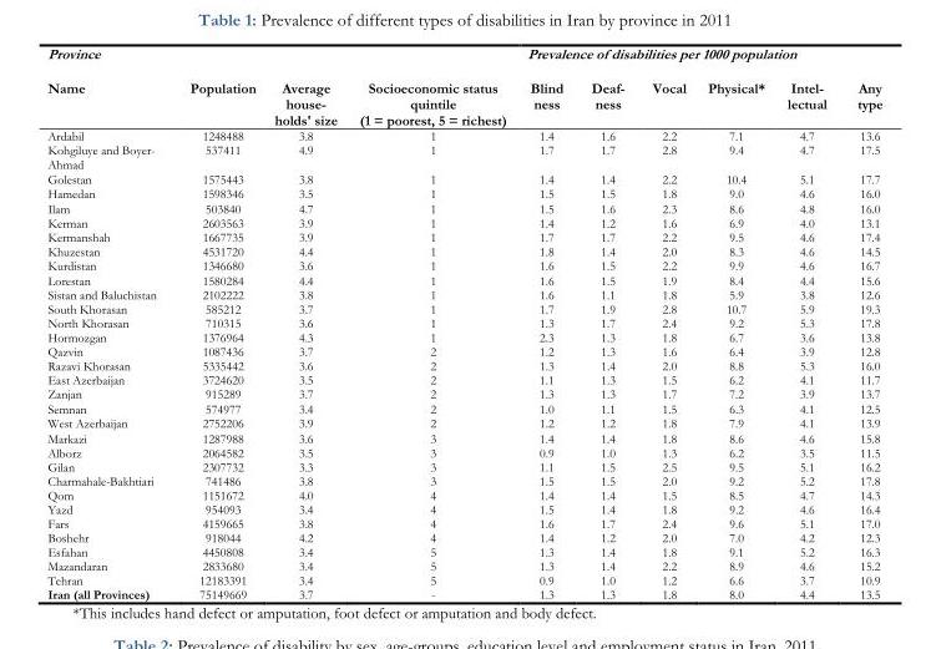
<table><thead><tr><td rowspan="2">Province Name</td><td colspan="9">Prevalence of disabilities per 1000 population</td></tr><tr><td>Population</td><td>Average house- holds&#x27; size</td><td>Socioeconomic status quintile (1 = poorest, 5 = richest)</td><td>Blind ness</td><td>Deaf- ness</td><td>Vocal</td><td>Physical*</td><td>Intel- lectual</td><td>Any type</td></tr></thead><tbody><tr><td>Ardabil</td><td>1248488</td><td>3.8</td><td>1</td><td>1.4</td><td>1.6</td><td>2.2</td><td>7.1</td><td>4.7</td><td>13.6</td></tr><tr><td>Kohgiluye and Boyer- Ahmad</td><td>537411</td><td>4.9</td><td>1</td><td>1.7</td><td>1.7</td><td>2.8</td><td>9.4</td><td>4.7</td><td>17.5</td></tr><tr><td>Golestan</td><td>1575443</td><td>3.8</td><td>1</td><td>1.4</td><td>1.4</td><td>2.2</td><td>10.4</td><td>5.1</td><td>17.7</td></tr><tr><td>Hamedan</td><td>1598346</td><td>3.5</td><td>1</td><td>1.5</td><td>1.5</td><td>1.8</td><td>9.0</td><td>4.6</td><td>16.0</td></tr><tr><td>Ilam</td><td>503840</td><td>4.7</td><td>1</td><td>1.5</td><td>1.6</td><td>2.3</td><td>8.6</td><td>4.8</td><td>16.0</td></tr><tr><td>Kerman</td><td>2603563</td><td>3.9</td><td>1</td><td>1.4</td><td>1.2</td><td>1.6</td><td>6.9</td><td>4.0</td><td>13.1</td></tr><tr><td>Kermanshah</td><td>1667735</td><td>3.9</td><td>1</td><td>1.7</td><td>1.7</td><td>2.2</td><td>9.5</td><td>4.6</td><td>17.4</td></tr><tr><td>Khuzestan</td><td>4531720</td><td>4.4</td><td>1</td><td>1.8</td><td>1.4</td><td>2.0</td><td>8.3</td><td>4.6</td><td>14.5</td></tr><tr><td>Kurdistan</td><td>1346680</td><td>3.6</td><td>1</td><td>1.6</td><td>1.5</td><td>2.2</td><td>9.9</td><td>4.6</td><td>16.7</td></tr><tr><td>Lorestan</td><td>1580284</td><td>4.4</td><td>1</td><td>1.6</td><td>1.5</td><td>1.9</td><td>8.4</td><td>4.4</td><td>15.6</td></tr><tr><td>Sistan and Baluchistan</td><td>2102222</td><td>3.8</td><td>1</td><td>1.6</td><td>1.1</td><td>1.8</td><td>5.9</td><td>3.8</td><td>12.6</td></tr><tr><td>South Khorasan</td><td>585212</td><td>3.7</td><td>1</td><td>1.7</td><td>1.9</td><td>2.8</td><td>10.7</td><td>5.9</td><td>19.3</td></tr><tr><td>North Khorasan</td><td>710315</td><td>3.6</td><td>1</td><td>1.3</td><td>1.7</td><td>2.4</td><td>9.2</td><td>5.3</td><td>17.8</td></tr><tr><td>Hormozgan</td><td>1376964</td><td>4.3</td><td>1</td><td>2.3</td><td>1.3</td><td>1.8</td><td>6.7</td><td>3.6</td><td>13.8</td></tr><tr><td>Qazvin</td><td>1087436</td><td>3.7</td><td>2</td><td>1.2</td><td>1.3</td><td>1.6</td><td>6.4</td><td>3.9</td><td>12.8</td></tr><tr><td>Razavi Khorasan</td><td>5335442</td><td>3.6</td><td>2</td><td>1.3</td><td>1.4</td><td>2.0</td><td>8.8</td><td>5.3</td><td>16.0</td></tr><tr><td>East Azerbaijan</td><td>3724620</td><td>3.5</td><td>2</td><td>1.1</td><td>1.3</td><td>1.5</td><td>6.2</td><td>4.1</td><td>11.7</td></tr><tr><td>Zanjan</td><td>915289</td><td>3.7</td><td>2</td><td>1.3</td><td>1.3</td><td>1.7</td><td>7.2</td><td>3.9</td><td>13.7</td></tr><tr><td>Semnan</td><td>574977</td><td>3.4</td><td>2</td><td>1.0</td><td>1.1</td><td>1.5</td><td>6.3</td><td>4.1</td><td>12.5</td></tr><tr><td>West Azerbaijan</td><td>2752206</td><td>3.9</td><td>2</td><td>1.2</td><td>1.2</td><td>1.8</td><td>7.9</td><td>4.1</td><td>13.9</td></tr><tr><td>Markazi</td><td>1287988</td><td>3.6</td><td>3</td><td>1.4</td><td>1.4</td><td>1.8</td><td>8.6</td><td>4.6</td><td>15.8</td></tr><tr><td>Alborz</td><td>2064582</td><td>3.5</td><td>3</td><td>0.9</td><td>1.0</td><td>1.3</td><td>6.2</td><td>3.5</td><td>11.5</td></tr><tr><td>Gilan</td><td>2307732</td><td>3.3</td><td>3</td><td>1.1</td><td>1.5</td><td>2.5</td><td>9.5</td><td>5.1</td><td>16.2</td></tr><tr><td>Charmahale-Bakhtiari</td><td>741486</td><td>3.8</td><td>3</td><td>1.5</td><td>1.5</td><td>2.0</td><td>9.2</td><td>5.2</td><td>17.8</td></tr><tr><td>Qom</td><td>1151672</td><td>4.0</td><td>4</td><td>1.4</td><td>1.4</td><td>1.5</td><td>8.5</td><td>4.7</td><td>14.3</td></tr><tr><td>Yazd</td><td>954093</td><td>3.4</td><td>4</td><td>1.5</td><td>1.4</td><td>1.8</td><td>9.2</td><td>4.6</td><td>16.4</td></tr><tr><td>Fars</td><td>4159665</td><td>3.8</td><td>4</td><td>1.6</td><td>1.7</td><td>2.4</td><td>9.6</td><td>5.1</td><td>17.0</td></tr><tr><td>Boshehr</td><td>918044</td><td>4.2</td><td>4</td><td>1.4</td><td>1.2</td><td>2.0</td><td>7.0</td><td>4.2</td><td>12.3</td></tr><tr><td>Esfahan</td><td>4450808</td><td>3.4</td><td>5</td><td>1.3</td><td>1.4</td><td>1.8</td><td>9.1</td><td>5.2</td><td>16.3</td></tr><tr><td>Mazandaran</td><td>2833680</td><td>3.4</td><td>5</td><td>1.3</td><td>1.4</td><td>2.2</td><td>8.9</td><td>4.6</td><td>15.2</td></tr><tr><td>Tehran</td><td>12183391</td><td>3.4</td><td>5</td><td>0.9</td><td>1.0</td><td>1.2</td><td>6.6</td><td>3.7</td><td>10.9</td></tr><tr><td>Iran (all Provinces)</td><td>75149669</td><td>3.7</td><td>-</td><td>1.3</td><td>1.3</td><td>1.8</td><td>8.0</td><td>4.4</td><td>13.5</td></tr></tbody></table>